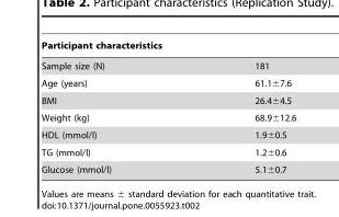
<table><thead><tr><td>Participant characteristics</td><td></td></tr></thead><tbody><tr><td>Sample size (N)</td><td>181</td></tr><tr><td>Age (years)</td><td>61.1±7.6</td></tr><tr><td>BMI</td><td>26.4±4.5</td></tr><tr><td>Weight (kg)</td><td>68.9±12.6</td></tr><tr><td>HDL (mmol/l)</td><td>1.9±0.5</td></tr><tr><td>TG (mmol/l)</td><td>1.2±0.6</td></tr><tr><td>Glucose (mmol/l)</td><td>5.1±0.7</td></tr></tbody></table>